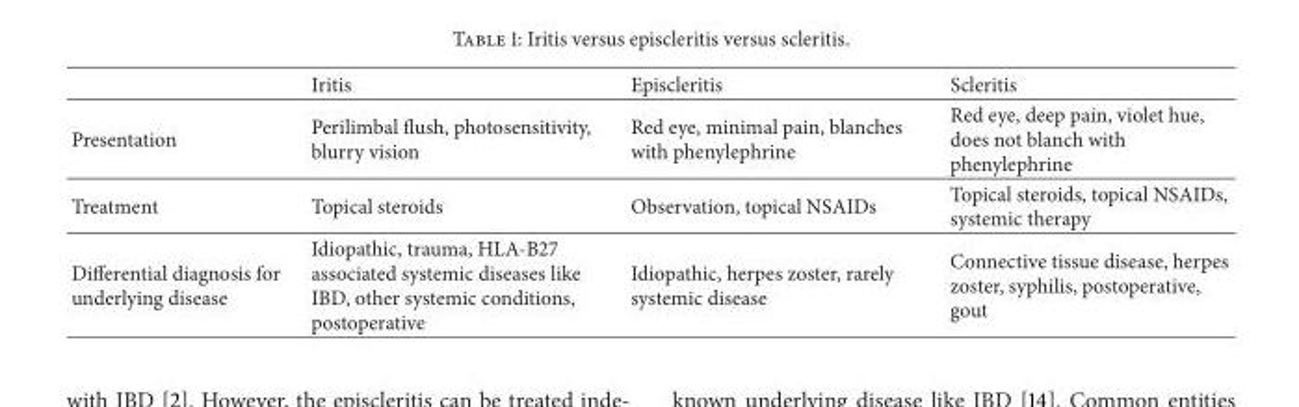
<table><thead><tr><td></td><td>Iritis</td><td>Episcleritis</td><td>Scleritis</td></tr></thead><tbody><tr><td>Presentation</td><td>Perilimbal flush, photosensitivity, blurry vision</td><td>Red eye, minimal pain, blanches with phenylephrine</td><td>Red eye, deep pain, violet hue, does not blanch with phenylephrine</td></tr><tr><td>Treatment</td><td>Topical steroids</td><td>Observation, topical NSAIDs</td><td>Topical steroids, topical NSAIDs, systemic therapy</td></tr><tr><td>Differential diagnosis for underlying disease</td><td>Idiopathic, trauma, HLA-B27 associated systemic diseases like IBD, other systemic conditions, postoperative</td><td>Idiopathic, herpes zoster, rarely systemic disease</td><td>Connective tissue disease, herpes zoster, syphilis, postoperative, gout</td></tr></tbody></table>